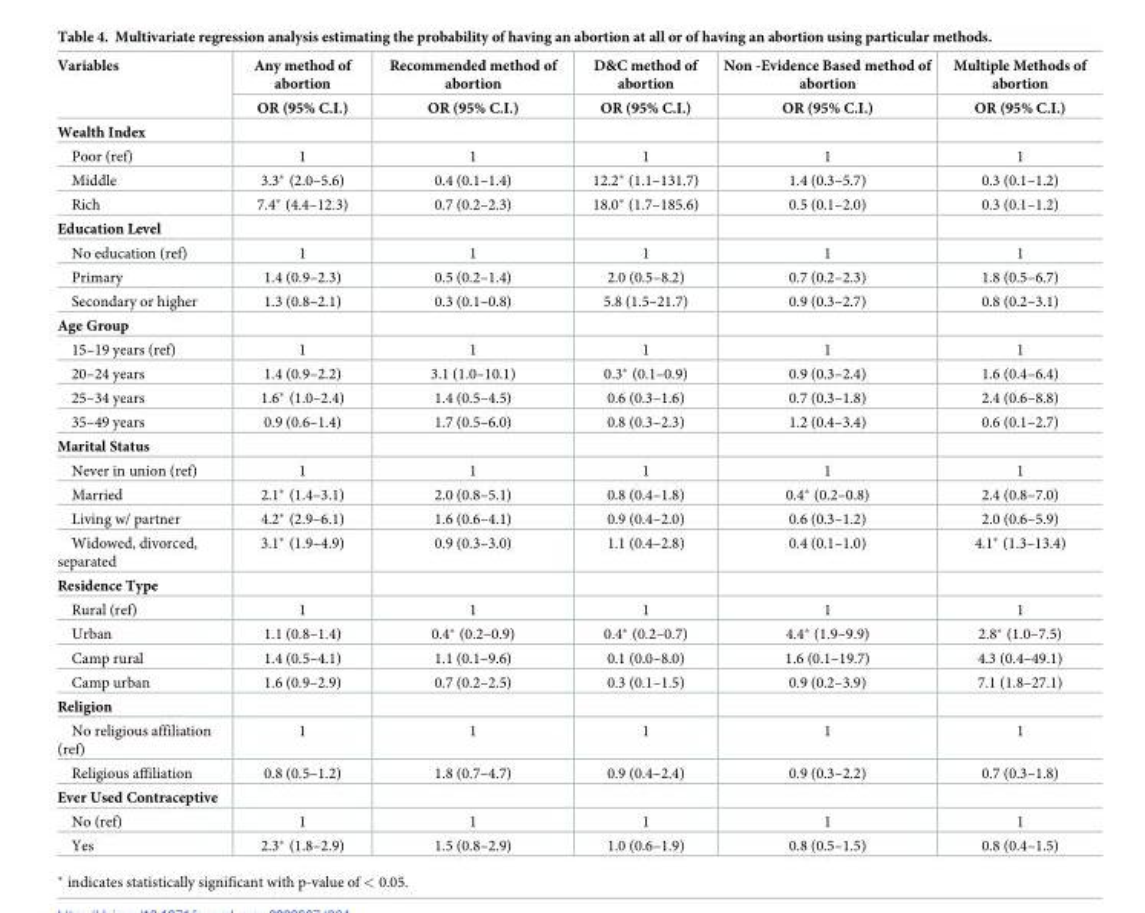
<table><thead><tr><td rowspan="2">Variables</td><td rowspan="2">Any method of abortion OR (95% C.I.)</td><td rowspan="2">Recommended method of abortion OR (95% C.I.)</td><td rowspan="2">D&amp;C method of abortion OR (95% C.I.)</td><td rowspan="2">Non -Evidence Based method of abortion OR (95% C.I.)</td><td rowspan="2">Multiple Methods of abortion OR (95% C.I.)</td></tr><tr></tr></thead><tbody><tr><td colspan="6">Wealth Index</td></tr><tr><td>Poor (ref)</td><td>1</td><td>1</td><td>1</td><td>1</td><td>1</td></tr><tr><td>Middle</td><td>3.3* (2.0–5.6)</td><td>0.4 (0.1–1.4)</td><td>12.2* (1.1–131.7)</td><td>1.4 (0.3–5.7)</td><td>0.3 (0.1–1.2)</td></tr><tr><td>Rich</td><td>7.4* (4.4–12.3)</td><td>0.7 (0.2–2.3)</td><td>18.0* (1.7–185.6)</td><td>0.5 (0.1–2.0)</td><td>0.3 (0.1–1.2)</td></tr><tr><td colspan="6">Education Level</td></tr><tr><td>No education (ref)</td><td>1</td><td>1</td><td>1</td><td>1</td><td>1</td></tr><tr><td>Primary</td><td>1.4 (0.9–2.3)</td><td>0.5 (0.2–1.4)</td><td>2.0 (0.5–8.2)</td><td>0.7 (0.2–2.3)</td><td>1.8 (0.5–6.7)</td></tr><tr><td>Secondary or higher</td><td>1.3 (0.8–2.1)</td><td>0.3 (0.1–0.8)</td><td>5.8 (1.5–21.7)</td><td>0.9 (0.3–2.7)</td><td>0.8 (0.2–3.1)</td></tr><tr><td colspan="6">Age Group</td></tr><tr><td>15–19 years (ref)</td><td>1</td><td>1</td><td>1</td><td>1</td><td>1</td></tr><tr><td>20–24 years</td><td>1.4 (0.9–2.2)</td><td>3.1 (1.0–10.1)</td><td>0.3* (0.1–0.9)</td><td>0.9 (0.3–2.4)</td><td>1.6 (0.4–6.4)</td></tr><tr><td>25–34 years</td><td>1.6* (1.0–2.4)</td><td>1.4 (0.5–4.5)</td><td>0.6 (0.3–1.6)</td><td>0.7 (0.3–1.8)</td><td>2.4 (0.6–8.8)</td></tr><tr><td>35–49 years</td><td>0.9 (0.6–1.4)</td><td>1.7 (0.5–6.0)</td><td>0.8 (0.3–2.3)</td><td>1.2 (0.4–3.4)</td><td>0.6 (0.1–2.7)</td></tr><tr><td colspan="6">Marital Status</td></tr><tr><td>Never in union (ref)</td><td>1</td><td>1</td><td>1</td><td>1</td><td>1</td></tr><tr><td>Married</td><td>2.1* (1.4–3.1)</td><td>2.0 (0.8–5.1)</td><td>0.8 (0.4–1.8)</td><td>0.4* (0.2–0.8)</td><td>2.4 (0.8–7.0)</td></tr><tr><td>Living w/ partner</td><td>4.2* (2.9–6.1)</td><td>1.6 (0.6–4.1)</td><td>0.9 (0.4–2.0)</td><td>0.6 (0.3–1.2)</td><td>2.0 (0.6–5.9)</td></tr><tr><td>Widowed, divorced, separated</td><td>3.1* (1.9–4.9)</td><td>0.9 (0.3–3.0)</td><td>1.1 (0.4–2.8)</td><td>0.4 (0.1–1.0)</td><td>4.1* (1.3–13.4)</td></tr><tr><td colspan="6">Residence Type</td></tr><tr><td>Rural (ref)</td><td>1</td><td>1</td><td>1</td><td>1</td><td>1</td></tr><tr><td>Urban</td><td>1.1 (0.8–1.4)</td><td>0.4* (0.2–0.9)</td><td>0.4* (0.2–0.7)</td><td>4.4* (1.9–9.9)</td><td>2.8* (1.0–7.5)</td></tr><tr><td>Camp rural</td><td>1.4 (0.5–4.1)</td><td>1.1 (0.1–9.6)</td><td>0.1 (0.0–8.0)</td><td>1.6 (0.1–19.7)</td><td>4.3 (0.4–49.1)</td></tr><tr><td>Camp urban</td><td>1.6 (0.9–2.9)</td><td>0.7 (0.2–2.5)</td><td>0.3 (0.1–1.5)</td><td>0.9 (0.2–3.9)</td><td>7.1 (1.8–27.1)</td></tr><tr><td colspan="6">Religion</td></tr><tr><td>No religious affiliation (ref)</td><td>1</td><td>1</td><td>1</td><td>1</td><td>1</td></tr><tr><td>Religious affiliation</td><td>0.8 (0.5–1.2)</td><td>1.8 (0.7–4.7)</td><td>0.9 (0.4–2.4)</td><td>0.9 (0.3–2.2)</td><td>0.7 (0.3–1.8)</td></tr><tr><td colspan="6">Ever Used Contraceptive</td></tr><tr><td>No (ref)</td><td>1</td><td>1</td><td>1</td><td>1</td><td>1</td></tr><tr><td>Yes</td><td>2.3* (1.8–2.9)</td><td>1.5 (0.8–2.9)</td><td>1.0 (0.6–1.9)</td><td>0.8 (0.5–1.5)</td><td>0.8 (0.4–1.5)</td></tr></tbody></table>